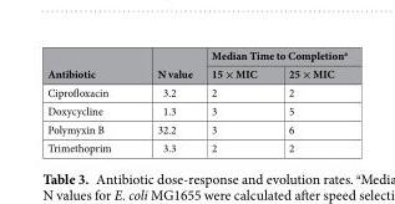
<table><thead><tr><td rowspan="2">Antibiotic</td><td rowspan="2">N value</td><td colspan="2">Median Time to Completion<sup>a</sup></td></tr><tr><td>15 × MIC</td><td>25 × MIC</td></tr></thead><tbody><tr><td>Ciprofloxacin</td><td>3.2</td><td>2</td><td>2</td></tr><tr><td>Doxycycline</td><td>1.3</td><td>3</td><td>5</td></tr><tr><td>Polymyxin B</td><td>32.2</td><td>3</td><td>6</td></tr><tr><td>Trimethoprim</td><td>3.3</td><td>2</td><td>2</td></tr></tbody></table>